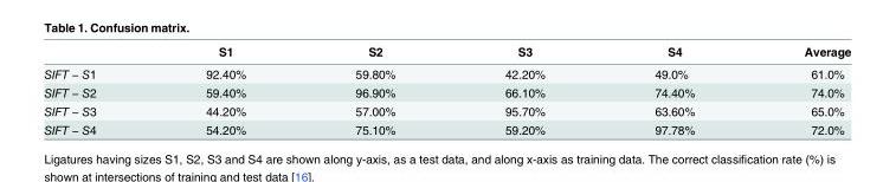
<table><thead><tr><td></td><td>S1</td><td>S2</td><td>S3</td><td>S4</td><td>Average</td></tr></thead><tbody><tr><td>SIFT − S1</td><td>92.40%</td><td>59.80%</td><td>42.20%</td><td>49.0%</td><td>61.0%</td></tr><tr><td>SIFT − S2</td><td>59.40%</td><td>96.90%</td><td>66.10%</td><td>74.40%</td><td>74.0%</td></tr><tr><td>SIFT − S3</td><td>44.20%</td><td>57.00%</td><td>95.70%</td><td>63.60%</td><td>65.0%</td></tr><tr><td>SIFT − S4</td><td>54.20%</td><td>75.10%</td><td>59.20%</td><td>97.78%</td><td>72.0%</td></tr></tbody></table>